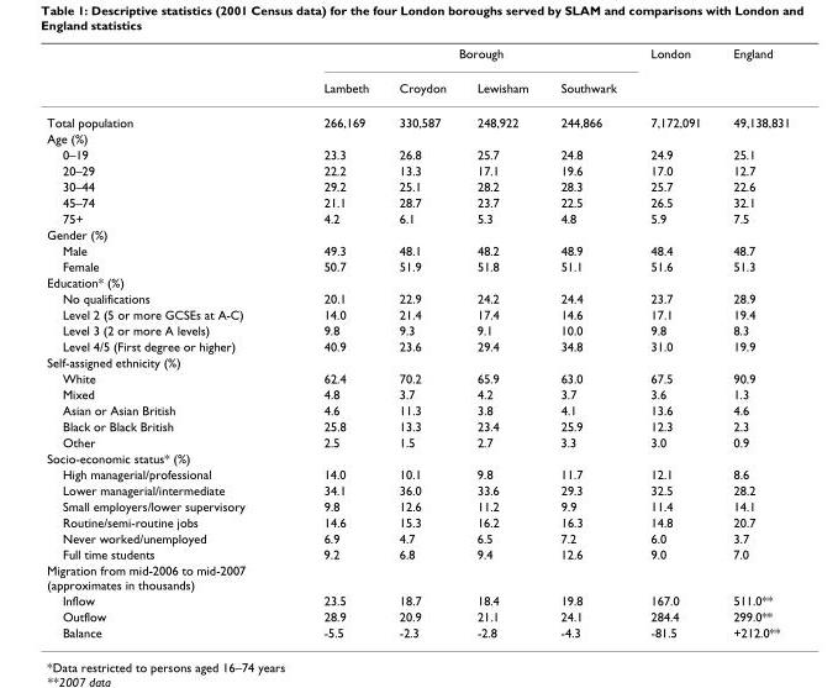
<table><thead><tr><td rowspan="2"></td><td colspan="4">Borough</td><td rowspan="2">London</td><td rowspan="2">England</td></tr><tr><td>Lambeth</td><td>Croydon</td><td>Lewisham</td><td>Southwark</td></tr></thead><tbody><tr><td>Total population</td><td>266,169</td><td>330,587</td><td>248,922</td><td>244,866</td><td>7,172,091</td><td>49,138,831</td></tr><tr><td colspan="7">Age (%)</td></tr><tr><td>0–19</td><td>23.3</td><td>26.8</td><td>25.7</td><td>24.8</td><td>24.9</td><td>25.1</td></tr><tr><td>20–29</td><td>22.2</td><td>13.3</td><td>17.1</td><td>19.6</td><td>17.0</td><td>12.7</td></tr><tr><td>30–44</td><td>29.2</td><td>25.1</td><td>28.2</td><td>28.3</td><td>25.7</td><td>22.6</td></tr><tr><td>45–74</td><td>21.1</td><td>28.7</td><td>23.7</td><td>22.5</td><td>26.5</td><td>32.1</td></tr><tr><td>75+</td><td>4.2</td><td>6.1</td><td>5.3</td><td>4.8</td><td>5.9</td><td>7.5</td></tr><tr><td colspan="7">Gender (%)</td></tr><tr><td>Male</td><td>49.3</td><td>48.1</td><td>48.2</td><td>48.9</td><td>48.4</td><td>48.7</td></tr><tr><td>Female</td><td>50.7</td><td>51.9</td><td>51.8</td><td>51.1</td><td>51.6</td><td>51.3</td></tr><tr><td colspan="7">Education* (%)</td></tr><tr><td>No qualifications</td><td>20.1</td><td>22.9</td><td>24.2</td><td>24.4</td><td>23.7</td><td>28.9</td></tr><tr><td>Level 2 (5 or more GCSEs at A-C)</td><td>14.0</td><td>21.4</td><td>17.4</td><td>14.6</td><td>17.1</td><td>19.4</td></tr><tr><td>Level 3 (2 or more A levels)</td><td>9.8</td><td>9.3</td><td>9.1</td><td>10.0</td><td>9.8</td><td>8.3</td></tr><tr><td>Level 4/5 (First degree or higher)</td><td>40.9</td><td>23.6</td><td>29.4</td><td>34.8</td><td>31.0</td><td>19.9</td></tr><tr><td colspan="7">Self-assigned ethnicity (%)</td></tr><tr><td>White</td><td>62.4</td><td>70.2</td><td>65.9</td><td>63.0</td><td>67.5</td><td>90.9</td></tr><tr><td>Mixed</td><td>4.8</td><td>3.7</td><td>4.2</td><td>3.7</td><td>3.6</td><td>1.3</td></tr><tr><td>Asian or Asian British</td><td>4.6</td><td>11.3</td><td>3.8</td><td>4.1</td><td>13.6</td><td>4.6</td></tr><tr><td>Black or Black British</td><td>25.8</td><td>13.3</td><td>23.4</td><td>25.9</td><td>12.3</td><td>2.3</td></tr><tr><td>Other</td><td>2.5</td><td>1.5</td><td>2.7</td><td>3.3</td><td>3.0</td><td>0.9</td></tr><tr><td colspan="7">Socio-economic status* (%)</td></tr><tr><td>High managerial/professional</td><td>14.0</td><td>10.1</td><td>9.8</td><td>11.7</td><td>12.1</td><td>8.6</td></tr><tr><td>Lower managerial/intermediate</td><td>34.1</td><td>36.0</td><td>33.6</td><td>29.3</td><td>32.5</td><td>28.2</td></tr><tr><td>Small employers/lower supervisory</td><td>9.8</td><td>12.6</td><td>11.2</td><td>9.9</td><td>11.4</td><td>14.1</td></tr><tr><td>Routine/semi-routine jobs</td><td>14.6</td><td>15.3</td><td>16.2</td><td>16.3</td><td>14.8</td><td>20.7</td></tr><tr><td>Never worked/unemployed</td><td>6.9</td><td>4.7</td><td>6.5</td><td>7.2</td><td>6.0</td><td>3.7</td></tr><tr><td>Full time students</td><td>9.2</td><td>6.8</td><td>9.4</td><td>12.6</td><td>9.0</td><td>7.0</td></tr><tr><td colspan="7">Migration from mid-2006 to mid-2007 (approximates in thousands)</td></tr><tr><td>Inflow</td><td>23.5</td><td>18.7</td><td>18.4</td><td>19.8</td><td>167.0</td><td>511.0**</td></tr><tr><td>Outflow</td><td>28.9</td><td>20.9</td><td>21.1</td><td>24.1</td><td>284.4</td><td>299.0**</td></tr><tr><td>Balance</td><td>-5.5</td><td>-2.3</td><td>-2.8</td><td>-4.3</td><td>-81.5</td><td>+212.0**</td></tr></tbody></table>